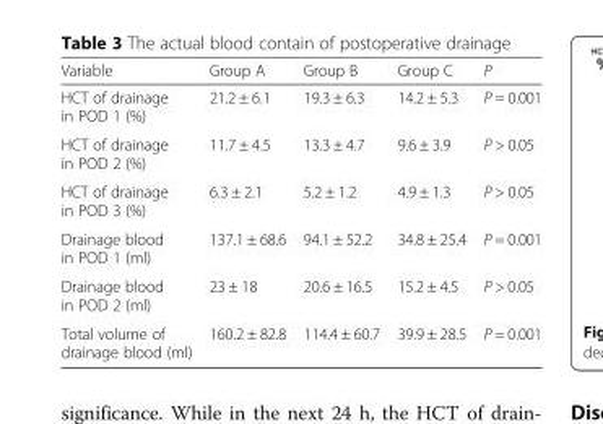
<table><thead><tr><td>Variable</td><td>Group A</td><td>Group B</td><td>Group C</td><td>P</td></tr></thead><tbody><tr><td>HCT of drainage in POD 1 (%)</td><td>21.2 ± 6.1</td><td>19.3 ± 6.3</td><td>14.2 ± 5.3</td><td>P = 0.001</td></tr><tr><td>HCT of drainage in POD 2 (%)</td><td>11.7 ± 4.5</td><td>13.3 ± 4.7</td><td>9.6 ± 3.9</td><td>P &gt; 0.05</td></tr><tr><td>HCT of drainage in POD 3 (%)</td><td>6.3 ± 2.1</td><td>5.2 ± 1.2</td><td>4.9 ± 1.3</td><td>P &gt; 0.05</td></tr><tr><td>Drainage blood in POD 1 (ml)</td><td>137.1 ± 68.6</td><td>94.1 ± 52.2</td><td>34.8 ± 25.4</td><td>P = 0.001</td></tr><tr><td>Drainage blood in POD 2 (ml)</td><td>23 ± 18</td><td>20.6 ± 16.5</td><td>15.2 ± 4.5</td><td>P &gt; 0.05</td></tr><tr><td>Total volume of drainage blood (ml)</td><td>160.2 ± 82.8</td><td>114.4 ± 60.7</td><td>39.9 ± 28.5</td><td>P = 0.001</td></tr></tbody></table>